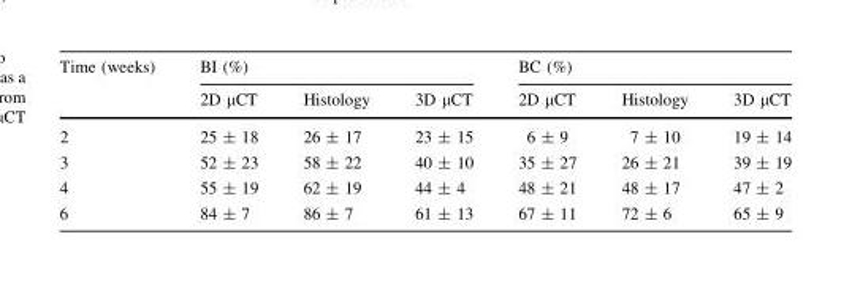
<table><thead><tr><td rowspan="2">Time (weeks)</td><td colspan="3">BI (%)</td><td colspan="3">BC (%)</td></tr><tr><td>2D µCT</td><td>Histology</td><td>3D µCT</td><td>2D µCT</td><td>Histology</td><td>3D µCT</td></tr></thead><tbody><tr><td>2</td><td>25 ± 18</td><td>26 ± 17</td><td>23 ± 15</td><td>6 ± 9</td><td>7 ± 10</td><td>19 ± 14</td></tr><tr><td>3</td><td>52 ± 23</td><td>58 ± 22</td><td>40 ± 10</td><td>35 ± 27</td><td>26 ± 21</td><td>39 ± 19</td></tr><tr><td>4</td><td>55 ± 19</td><td>62 ± 19</td><td>44 ± 4</td><td>48 ± 21</td><td>48 ± 17</td><td>47 ± 2</td></tr><tr><td>6</td><td>84 ± 7</td><td>86 ± 7</td><td>61 ± 13</td><td>67 ± 11</td><td>72 ± 6</td><td>65 ± 9</td></tr></tbody></table>